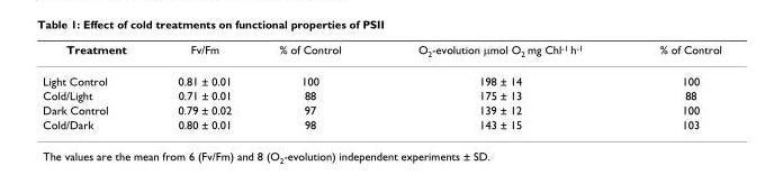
<table><thead><tr><td>Treatment</td><td>Fv/Fm</td><td>% of Control</td><td>O<sub>2</sub>-evolution µmol O<sub>2</sub> mg Chl<sup>-1</sup> h<sup>-1</sup></td><td>% of Control</td></tr></thead><tbody><tr><td>Light Control</td><td>0.81 ± 0.01</td><td>100</td><td>198 ± 14</td><td>100</td></tr><tr><td>Cold/Light</td><td>0.71 ± 0.01</td><td>88</td><td>175 ± 13</td><td>88</td></tr><tr><td>Dark Control</td><td>0.79 ± 0.02</td><td>97</td><td>139 ± 12</td><td>100</td></tr><tr><td>Cold/Dark</td><td>0.80 ± 0.01</td><td>98</td><td>143 ± 15</td><td>103</td></tr></tbody></table>